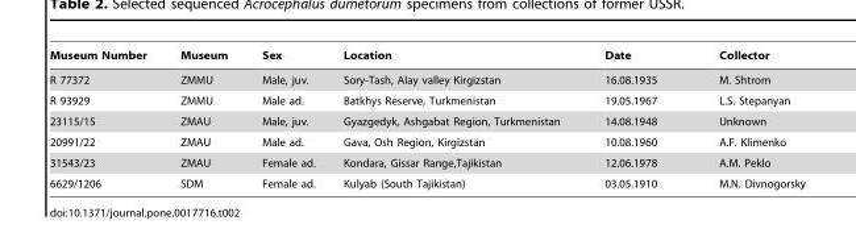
<table><thead><tr><td>Museum Number</td><td>Museum</td><td>Sex</td><td>Location</td><td>Date</td><td>Collector</td></tr></thead><tbody><tr><td>R 77372</td><td>ZMMU</td><td>Male, juv.</td><td>Sory-Tash, Alay valley Kirgizstan</td><td>16.08.1935</td><td>M. Shtrom</td></tr><tr><td>R 93929</td><td>ZMMU</td><td>Male ad.</td><td>Batkhys Reserve, Turkmenistan</td><td>19.05.1967</td><td>L.S. Stepanyan</td></tr><tr><td>23115/15</td><td>ZMAU</td><td>Male, juv.</td><td>Gyazgedyk, Ashgabat Region, Turkmenistan</td><td>14.08.1948</td><td>Unknown</td></tr><tr><td>20991/22</td><td>ZMAU</td><td>Male ad.</td><td>Gava, Osh Region, Kirgizstan</td><td>10.08.1960</td><td>A.F. Klimenko</td></tr><tr><td>31543/23</td><td>ZMAU</td><td>Female ad.</td><td>Kondara, Gissar Range,Tajikistan</td><td>12.06.1978</td><td>A.M. Peklo</td></tr><tr><td>6629/1206</td><td>SDM</td><td>Female ad.</td><td>Kulyab (South Tajikistan)</td><td>03.05.1910</td><td>M.N. Divnogorsky</td></tr></tbody></table>